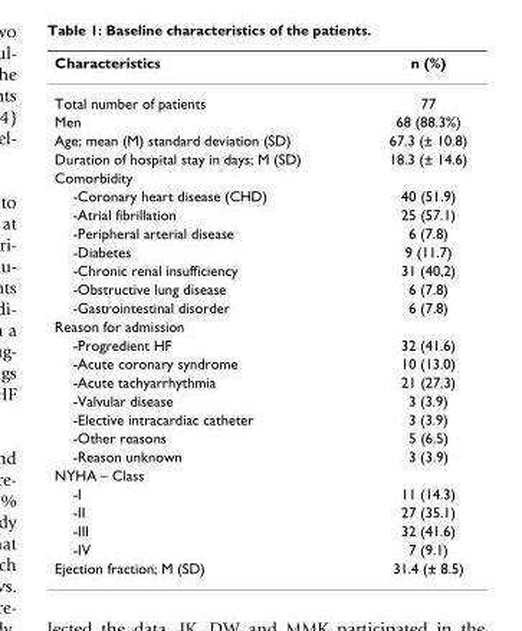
<table><thead><tr><td>Characteristics</td><td>n (%)</td></tr></thead><tbody><tr><td>Total number of patients</td><td>77</td></tr><tr><td>Men</td><td>68 (88.3%)</td></tr><tr><td>Age; mean (M) standard deviation (SD)</td><td>67.3 (± 10.8)</td></tr><tr><td>Duration of hospital stay in days; M (SD)</td><td>18.3 (± 14.6)</td></tr><tr><td colspan="2">Comorbidity</td></tr><tr><td>-Coronary heart disease (CHD)</td><td>40 (51.9)</td></tr><tr><td>-Atrial fibrillation</td><td>25 (57.1)</td></tr><tr><td>-Peripheral arterial disease</td><td>6 (7.8)</td></tr><tr><td>-Diabetes</td><td>9 (11.7)</td></tr><tr><td>-Chronic renal insufficiency</td><td>31 (40,2)</td></tr><tr><td>-Obstructive lung disease</td><td>6 (7.8)</td></tr><tr><td>-Gastrointestinal disorder</td><td>6 (7.8)</td></tr><tr><td colspan="2">Reason for admission</td></tr><tr><td>-Progredient HF</td><td>32 (41.6)</td></tr><tr><td>-Acute coronary syndrome</td><td>10 (13.0)</td></tr><tr><td>-Acute tachyarrhythmia</td><td>21 (27.3)</td></tr><tr><td>-Valvular disease</td><td>3 (3.9)</td></tr><tr><td>-Elective intracardiac catheter</td><td>3 (3.9)</td></tr><tr><td>-Other reasons</td><td>5 (6.5)</td></tr><tr><td>-Reason unknown</td><td>3 (3.9)</td></tr><tr><td colspan="2">NYHA – Class</td></tr><tr><td>-I</td><td>11 (14.3)</td></tr><tr><td>-II</td><td>27 (35.1)</td></tr><tr><td>-III</td><td>32 (41.6)</td></tr><tr><td>-IV</td><td>7 (9.1)</td></tr><tr><td>Ejection fraction; M (SD)</td><td>31.4 (± 8.5)</td></tr></tbody></table>